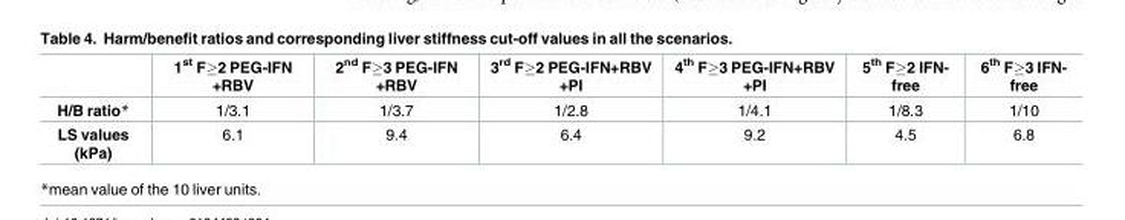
<table><thead><tr><td></td><td>1<sup>st</sup> F≥2 PEG-IFN +RBV</td><td>2<sup>nd</sup> F≥3 PEG-IFN +RBV</td><td>3<sup>rd</sup> F≥2 PEG-IFN+RBV +PI</td><td>4<sup>th</sup> F≥3 PEG-IFN+RBV +PI</td><td>5<sup>th</sup> F≥2 IFN- free</td><td>6<sup>th</sup> F≥3 IFN- free</td></tr></thead><tbody><tr><td>H/B ratio*</td><td>1/3.1</td><td>1/3.7</td><td>1/2.8</td><td>1/4.1</td><td>1/8.3</td><td>1/10</td></tr><tr><td>LS values (kPa)</td><td>6.1</td><td>9.4</td><td>6.4</td><td>9.2</td><td>4.5</td><td>6.8</td></tr></tbody></table>